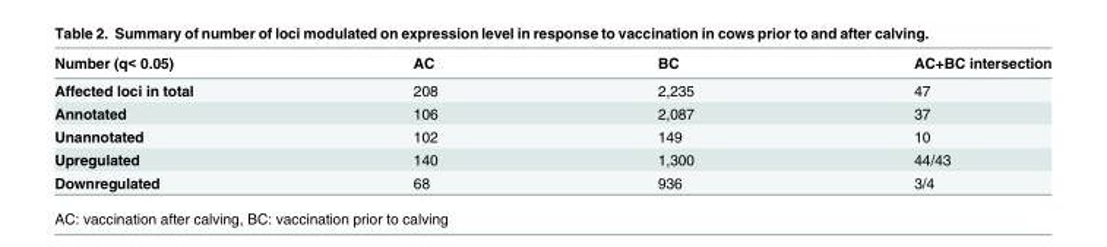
<table><thead><tr><td>Number (q&lt; 0.05)</td><td>AC</td><td>BC</td><td>AC+BC intersection</td></tr></thead><tbody><tr><td>Affected loci in total</td><td>208</td><td>2,235</td><td>47</td></tr><tr><td>Annotated</td><td>106</td><td>2,087</td><td>37</td></tr><tr><td>Unannotated</td><td>102</td><td>149</td><td>10</td></tr><tr><td>Upregulated</td><td>140</td><td>1,300</td><td>44/43</td></tr><tr><td>Downregulated</td><td>68</td><td>936</td><td>3/4</td></tr></tbody></table>